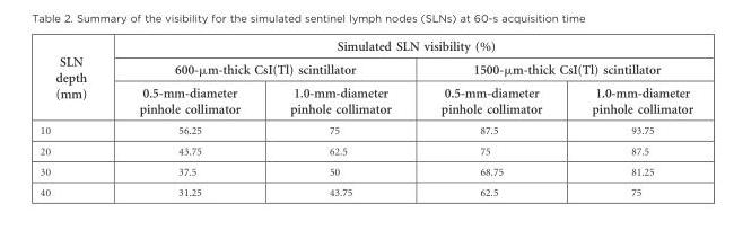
<table><thead><tr><td rowspan="3">SLN depth (mm)</td><td colspan="4">Simulated SLN visibility (%)</td></tr><tr><td colspan="2">600-μm-thick CsI(Tl) scintillator</td><td colspan="2">1500-μm-thick CsI(Tl) scintillator</td></tr><tr><td>0.5-mm-diameter pinhole collimator</td><td>1.0-mm-diameter pinhole collimator</td><td>0.5-mm-diameter pinhole collimator</td><td>1.0-mm-diameter pinhole collimator</td></tr></thead><tbody><tr><td>10</td><td>56.25</td><td>75</td><td>87.5</td><td>93.75</td></tr><tr><td>20</td><td>43.75</td><td>62.5</td><td>75</td><td>87.5</td></tr><tr><td>30</td><td>37.5</td><td>50</td><td>68.75</td><td>81.25</td></tr><tr><td>40</td><td>31.25</td><td>43.75</td><td>62.5</td><td>75</td></tr></tbody></table>